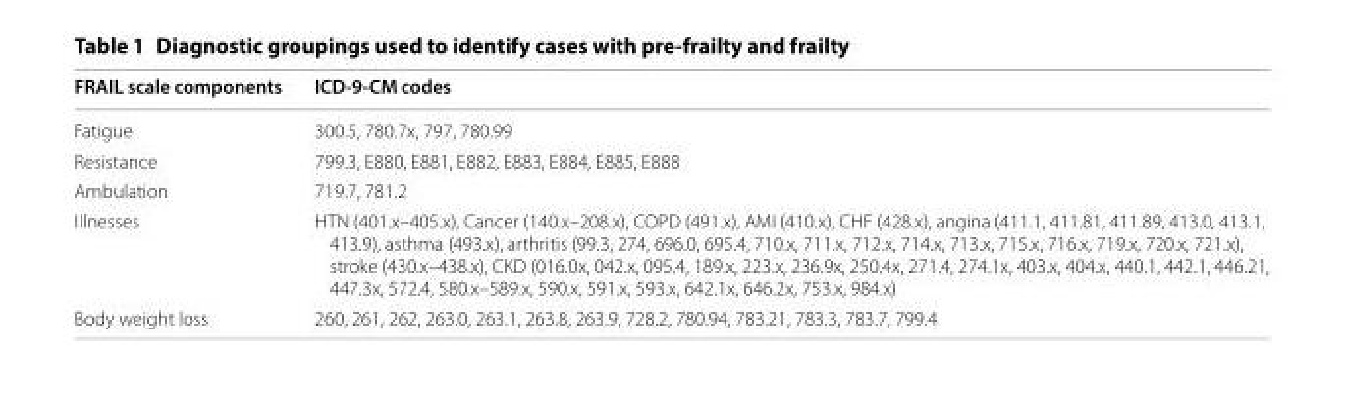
<table><thead><tr><td>FRAIL scale components</td><td>ICD-9-CM codes</td></tr></thead><tbody><tr><td>Fatigue</td><td>300.5, 780.7x, 797, 780.99</td></tr><tr><td>Resistance</td><td>799.3, E880, E881, E882, E883, E884, E885, E888</td></tr><tr><td>Ambulation</td><td>719.7, 781.2</td></tr><tr><td>Illnesses</td><td>HTN (401.x–405.x), Cancer (140.x–208.x), COPD (491.x), AMI (410.x), CHF (428.x), angina (411.1, 411.81, 411.89, 413.0, 413.1, 413.9), asthma (493.x), arthritis (99.3, 274, 696.0, 695.4, 710.x, 711.x, 712.x, 714.x, 713.x, 715.x, 716.x, 719.x, 720.x, 721.x), stroke (430.x–438.x), CKD (016.0x, 042.x, 095.4, 189.x, 223.x, 236.9x, 250.4x, 271.4, 274.1x, 403.x, 404.x, 440.1, 442.1, 446.21, 447.3x, 572.4, 580.x–589.x, 590.x, 591.x, 593.x, 642.1x, 646.2x, 753.x, 984.x)</td></tr><tr><td>Body weight loss</td><td>260, 261, 262, 263.0, 263.1, 263.8, 263.9, 728.2, 780.94, 783.21, 783.3, 783.7, 799.4</td></tr></tbody></table>